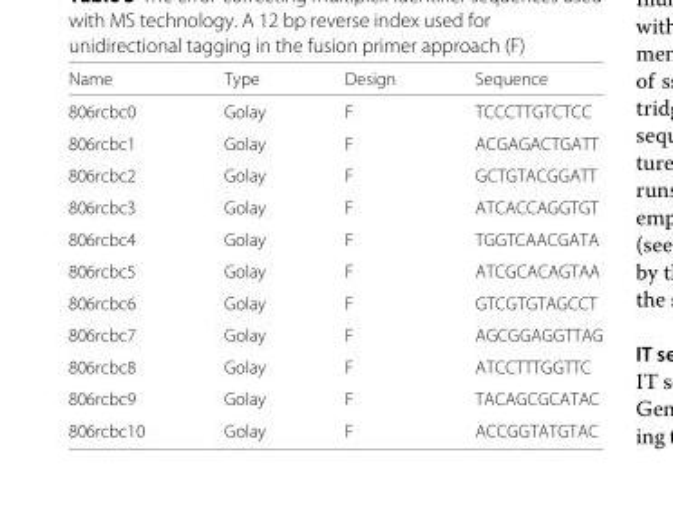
<table><thead><tr><td>Name</td><td>Type</td><td>Design</td><td>Sequence</td></tr></thead><tbody><tr><td>806rcbc0</td><td>Golay</td><td>F</td><td>TCCCTTGTCTCC</td></tr><tr><td>806rcbc1</td><td>Golay</td><td>F</td><td>ACGAGACTGATT</td></tr><tr><td>806rcbc2</td><td>Golay</td><td>F</td><td>GCTGTACGGATT</td></tr><tr><td>806rcbc3</td><td>Golay</td><td>F</td><td>ATCACCAGGTGT</td></tr><tr><td>806rcbc4</td><td>Golay</td><td>F</td><td>TGGTCAACGATA</td></tr><tr><td>806rcbc5</td><td>Golay</td><td>F</td><td>ATCGCACAGTAA</td></tr><tr><td>806rcbc6</td><td>Golay</td><td>F</td><td>GTCGTGTAGCCT</td></tr><tr><td>806rcbc7</td><td>Golay</td><td>F</td><td>AGCGGAGGTTAG</td></tr><tr><td>806rcbc8</td><td>Golay</td><td>F</td><td>ATCCTTTGGTTC</td></tr><tr><td>806rcbc9</td><td>Golay</td><td>F</td><td>TACAGCGCATAC</td></tr><tr><td>806rcbc10</td><td>Golay</td><td>F</td><td>ACCGGTATGTAC</td></tr></tbody></table>